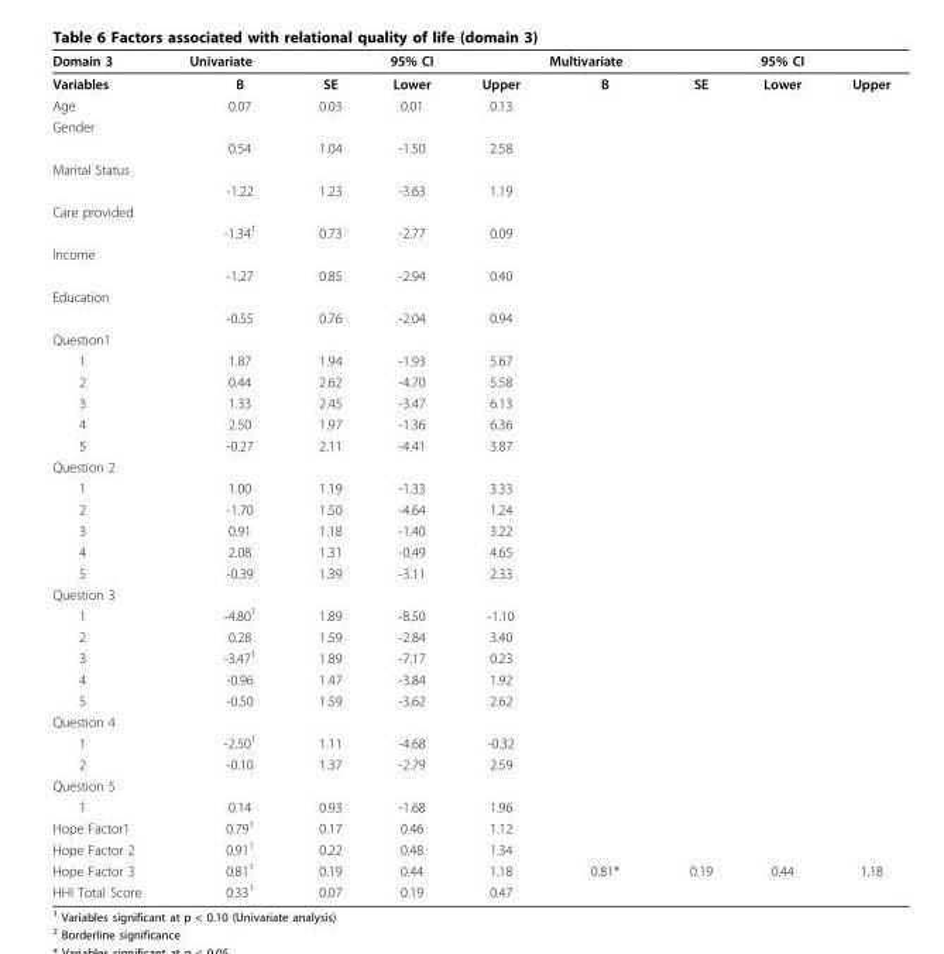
<table><thead><tr><td>Domain 3</td><td>Univariate</td><td></td><td>95% CI</td><td></td><td>Multivariate</td><td></td><td>95% CI</td><td></td></tr></thead><tbody><tr><td>Variables</td><td>B</td><td>SE</td><td>Lower</td><td>Upper</td><td>B</td><td>SE</td><td>Lower</td><td>Upper</td></tr><tr><td>Age</td><td>0.07</td><td>0.03</td><td>0.01</td><td>0.13</td><td></td><td></td><td></td><td></td></tr><tr><td colspan="9">Gender</td></tr><tr><td></td><td>0.54</td><td>1.04</td><td>-1.50</td><td>2.58</td><td></td><td></td><td></td><td></td></tr><tr><td colspan="9">Marital Status</td></tr><tr><td></td><td>-1.22</td><td>1.23</td><td>-3.63</td><td>1.19</td><td></td><td></td><td></td><td></td></tr><tr><td colspan="9">Care provided</td></tr><tr><td></td><td>-1.34<sup>1</sup></td><td>0.73</td><td>-2.77</td><td>0.09</td><td></td><td></td><td></td><td></td></tr><tr><td colspan="9">Income</td></tr><tr><td></td><td>-1.27</td><td>0.85</td><td>-2.94</td><td>0.40</td><td></td><td></td><td></td><td></td></tr><tr><td colspan="9">Education</td></tr><tr><td></td><td>-0.55</td><td>0.76</td><td>-2.04</td><td>0.94</td><td></td><td></td><td></td><td></td></tr><tr><td colspan="9">Question1</td></tr><tr><td>1</td><td>1.87</td><td>1.94</td><td>-1.93</td><td>5.67</td><td></td><td></td><td></td><td></td></tr><tr><td>2</td><td>0.44</td><td>2.62</td><td>-4.70</td><td>5.58</td><td></td><td></td><td></td><td></td></tr><tr><td>3</td><td>1.33</td><td>2.45</td><td>-3.47</td><td>6.13</td><td></td><td></td><td></td><td></td></tr><tr><td>4</td><td>2.50</td><td>1.97</td><td>-1.36</td><td>6.36</td><td></td><td></td><td></td><td></td></tr><tr><td>5</td><td>-0.27</td><td>2.11</td><td>-4.41</td><td>3.87</td><td></td><td></td><td></td><td></td></tr><tr><td colspan="9">Question 2</td></tr><tr><td>1</td><td>1.00</td><td>1.19</td><td>-1.33</td><td>3.33</td><td></td><td></td><td></td><td></td></tr><tr><td>2</td><td>-1.70</td><td>1.50</td><td>-4.64</td><td>1.24</td><td></td><td></td><td></td><td></td></tr><tr><td>3</td><td>0.91</td><td>1.18</td><td>-1.40</td><td>3.22</td><td></td><td></td><td></td><td></td></tr><tr><td>4</td><td>2.08</td><td>1.31</td><td>-0.49</td><td>4.65</td><td></td><td></td><td></td><td></td></tr><tr><td>5</td><td>-0.39</td><td>1.39</td><td>-3.11</td><td>2.33</td><td></td><td></td><td></td><td></td></tr><tr><td colspan="9">Question 3</td></tr><tr><td>1</td><td>-4.80<sup>1</sup></td><td>1.89</td><td>-8.50</td><td>-1.10</td><td></td><td></td><td></td><td></td></tr><tr><td>2</td><td>0.28</td><td>1.59</td><td>-2.84</td><td>3.40</td><td></td><td></td><td></td><td></td></tr><tr><td>3</td><td>-3.47<sup>1</sup></td><td>1.89</td><td>-7.17</td><td>0.23</td><td></td><td></td><td></td><td></td></tr><tr><td>4</td><td>-0.96</td><td>1.47</td><td>-3.84</td><td>1.92</td><td></td><td></td><td></td><td></td></tr><tr><td>5</td><td>-0.50</td><td>1.59</td><td>-3.62</td><td>2.62</td><td></td><td></td><td></td><td></td></tr><tr><td colspan="9">Question 4</td></tr><tr><td>1</td><td>-2.50<sup>1</sup></td><td>1.11</td><td>-4.68</td><td>-0.32</td><td></td><td></td><td></td><td></td></tr><tr><td>2</td><td>-0.10</td><td>1.37</td><td>-2.79</td><td>2.59</td><td></td><td></td><td></td><td></td></tr><tr><td colspan="9">Question 5</td></tr><tr><td>1</td><td>0.14</td><td>0.93</td><td>-1.68</td><td>1.96</td><td></td><td></td><td></td><td></td></tr><tr><td>Hope Factor1</td><td>0.79<sup>1</sup></td><td>0.17</td><td>0.46</td><td>1.12</td><td></td><td></td><td></td><td></td></tr><tr><td>Hope Factor 2</td><td>0.91<sup>1</sup></td><td>0.22</td><td>0.48</td><td>1.34</td><td></td><td></td><td></td><td></td></tr><tr><td>Hope Factor 3</td><td>0.81<sup>1</sup></td><td>0.19</td><td>0.44</td><td>1.18</td><td>0.81*</td><td>0.19</td><td>0.44</td><td>1.18</td></tr><tr><td>HHI Total Score</td><td>0.33<sup>1</sup></td><td>0.07</td><td>0.19</td><td>0.47</td><td></td><td></td><td></td><td></td></tr></tbody></table>